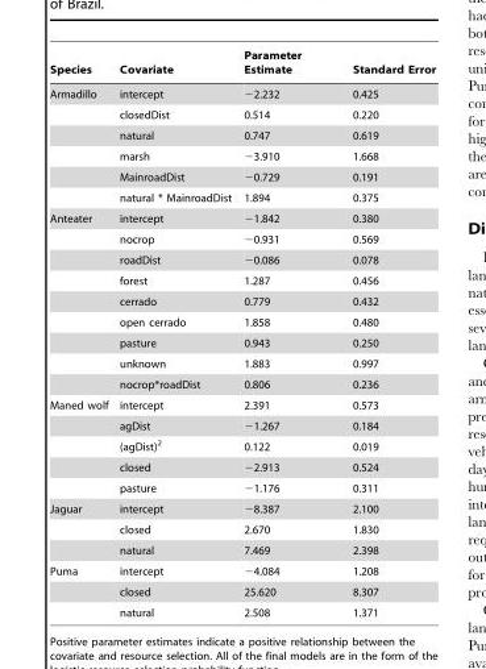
<table><thead><tr><td>Species</td><td>Covariate</td><td>Parameter Estimate</td><td>Standard Error</td></tr></thead><tbody><tr><td rowspan="6">Armadillo</td><td>intercept</td><td>−2.232</td><td>0.425</td></tr><tr><td>closedDist</td><td>0.514</td><td>0.220</td></tr><tr><td>natural</td><td>0.747</td><td>0.619</td></tr><tr><td>marsh</td><td>−3.910</td><td>1.668</td></tr><tr><td>MainroadDist</td><td>−0.729</td><td>0.191</td></tr><tr><td>natural * MainroadDist</td><td>1.894</td><td>0.375</td></tr><tr><td rowspan="9">Anteater</td><td>intercept</td><td>−1.842</td><td>0.380</td></tr><tr><td>nocrop</td><td>−0.931</td><td>0.569</td></tr><tr><td>roadDist</td><td>−0.086</td><td>0.078</td></tr><tr><td>forest</td><td>1.287</td><td>0.456</td></tr><tr><td>cerrado</td><td>0.779</td><td>0.432</td></tr><tr><td>open cerrado</td><td>1.858</td><td>0.480</td></tr><tr><td>pasture</td><td>0.943</td><td>0.250</td></tr><tr><td>unknown</td><td>1.883</td><td>0.997</td></tr><tr><td>nocrop*roadDist</td><td>0.806</td><td>0.236</td></tr><tr><td rowspan="5">Maned wolf</td><td>intercept</td><td>2.391</td><td>0.573</td></tr><tr><td>agDist</td><td>−1.267</td><td>0.184</td></tr><tr><td>(agDist)<sup>2</sup></td><td>0.122</td><td>0.019</td></tr><tr><td>closed</td><td>−2.913</td><td>0.524</td></tr><tr><td>pasture</td><td>−1.176</td><td>0.311</td></tr><tr><td rowspan="3">Jaguar</td><td>intercept</td><td>−8.387</td><td>2.100</td></tr><tr><td>closed</td><td>2.670</td><td>1.830</td></tr><tr><td>natural</td><td>7.469</td><td>2.398</td></tr><tr><td rowspan="3">Puma</td><td>intercept</td><td>−4.084</td><td>1.208</td></tr><tr><td>closed</td><td>25.620</td><td>8.307</td></tr><tr><td>natural</td><td>2.508</td><td>1.371</td></tr></tbody></table>